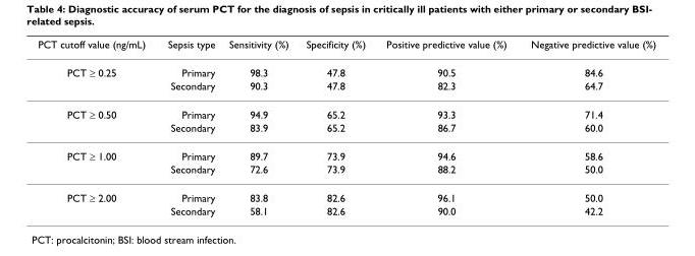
<table><thead><tr><td>PCT cutoff value (ng/mL)</td><td>Sepsis type</td><td>Sensitivity (%)</td><td>Specificity (%)</td><td>Positive predictive value (%)</td><td>Negative predictive value (%)</td></tr></thead><tbody><tr><td rowspan="2">PCT ≥ 0.25</td><td>Primary</td><td>98.3</td><td>47.8</td><td>90.5</td><td>84.6</td></tr><tr><td>Secondary</td><td>90.3</td><td>47.8</td><td>82.3</td><td>64.7</td></tr><tr><td rowspan="2">PCT ≥ 0.50</td><td>Primary</td><td>94.9</td><td>65.2</td><td>93.3</td><td>71.4</td></tr><tr><td>Secondary</td><td>83.9</td><td>65.2</td><td>86.7</td><td>60.0</td></tr><tr><td rowspan="2">PCT ≥ 1.00</td><td>Primary</td><td>89.7</td><td>73.9</td><td>94.6</td><td>58.6</td></tr><tr><td>Secondary</td><td>72.6</td><td>73.9</td><td>88.2</td><td>50.0</td></tr><tr><td rowspan="2">PCT ≥ 2.00</td><td>Primary</td><td>83.8</td><td>82.6</td><td>96.1</td><td>50.0</td></tr><tr><td>Secondary</td><td>58.1</td><td>82.6</td><td>90.0</td><td>42.2</td></tr></tbody></table>